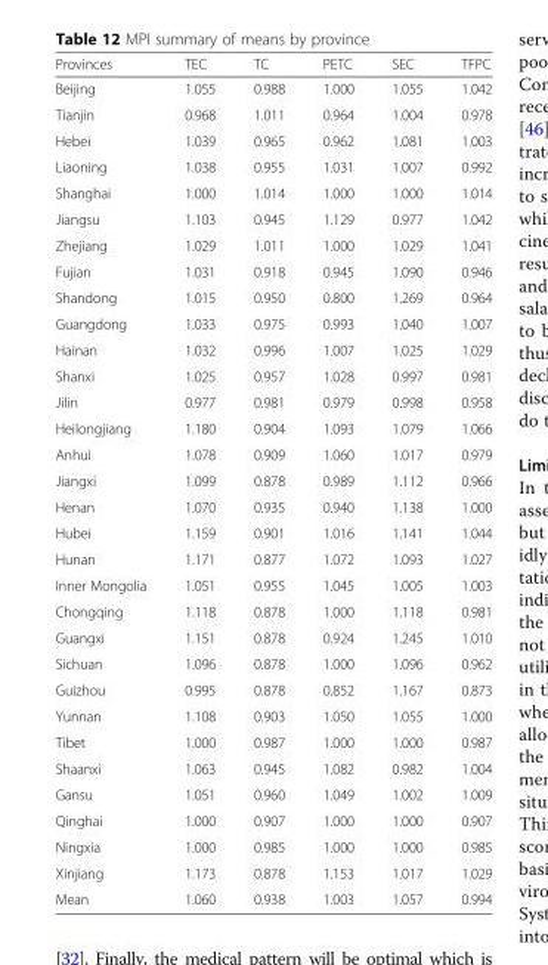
<table><thead><tr><td>Provinces</td><td>TEC</td><td>TC</td><td>PETC</td><td>SEC</td><td>TFPC</td></tr></thead><tbody><tr><td>Beijing</td><td>1.055</td><td>0.988</td><td>1.000</td><td>1.055</td><td>1.042</td></tr><tr><td>Tianjin</td><td>0.968</td><td>1.011</td><td>0.964</td><td>1.004</td><td>0.978</td></tr><tr><td>Hebei</td><td>1.039</td><td>0.965</td><td>0.962</td><td>1.081</td><td>1.003</td></tr><tr><td>Liaoning</td><td>1.038</td><td>0.955</td><td>1.031</td><td>1.007</td><td>0.992</td></tr><tr><td>Shanghai</td><td>1.000</td><td>1.014</td><td>1.000</td><td>1.000</td><td>1.014</td></tr><tr><td>Jiangsu</td><td>1.103</td><td>0.945</td><td>1.129</td><td>0.977</td><td>1.042</td></tr><tr><td>Zhejiang</td><td>1.029</td><td>1.011</td><td>1.000</td><td>1.029</td><td>1.041</td></tr><tr><td>Fujian</td><td>1.031</td><td>0.918</td><td>0.945</td><td>1.090</td><td>0.946</td></tr><tr><td>Shandong</td><td>1.015</td><td>0.950</td><td>0.800</td><td>1.269</td><td>0.964</td></tr><tr><td>Guangdong</td><td>1.033</td><td>0.975</td><td>0.993</td><td>1.040</td><td>1.007</td></tr><tr><td>Hainan</td><td>1.032</td><td>0.996</td><td>1.007</td><td>1.025</td><td>1.029</td></tr><tr><td>Shanxi</td><td>1.025</td><td>0.957</td><td>1.028</td><td>0.997</td><td>0.981</td></tr><tr><td>Jilin</td><td>0.977</td><td>0.981</td><td>0.979</td><td>0.998</td><td>0.958</td></tr><tr><td>Heilongjiang</td><td>1.180</td><td>0.904</td><td>1.093</td><td>1.079</td><td>1.066</td></tr><tr><td>Anhui</td><td>1.078</td><td>0.909</td><td>1.060</td><td>1.017</td><td>0.979</td></tr><tr><td>Jiangxi</td><td>1.099</td><td>0.878</td><td>0.989</td><td>1.112</td><td>0.966</td></tr><tr><td>Henan</td><td>1.070</td><td>0.935</td><td>0.940</td><td>1.138</td><td>1.000</td></tr><tr><td>Hubei</td><td>1.159</td><td>0.901</td><td>1.016</td><td>1.141</td><td>1.044</td></tr><tr><td>Hunan</td><td>1.171</td><td>0.877</td><td>1.072</td><td>1.093</td><td>1.027</td></tr><tr><td>Inner Mongolia</td><td>1.051</td><td>0.955</td><td>1.045</td><td>1.005</td><td>1.003</td></tr><tr><td>Chongqing</td><td>1.118</td><td>0.878</td><td>1.000</td><td>1.118</td><td>0.981</td></tr><tr><td>Guangxi</td><td>1.151</td><td>0.878</td><td>0.924</td><td>1.245</td><td>1.010</td></tr><tr><td>Sichuan</td><td>1.096</td><td>0.878</td><td>1.000</td><td>1.096</td><td>0.962</td></tr><tr><td>Guizhou</td><td>0.995</td><td>0.878</td><td>0.852</td><td>1.167</td><td>0.873</td></tr><tr><td>Yunnan</td><td>1.108</td><td>0.903</td><td>1.050</td><td>1.055</td><td>1.000</td></tr><tr><td>Tibet</td><td>1.000</td><td>0.987</td><td>1.000</td><td>1.000</td><td>0.987</td></tr><tr><td>Shaanxi</td><td>1.063</td><td>0.945</td><td>1.082</td><td>0.982</td><td>1.004</td></tr><tr><td>Gansu</td><td>1.051</td><td>0.960</td><td>1.049</td><td>1.002</td><td>1.009</td></tr><tr><td>Qinghai</td><td>1.000</td><td>0.907</td><td>1.000</td><td>1.000</td><td>0.907</td></tr><tr><td>Ningxia</td><td>1.000</td><td>0.985</td><td>1.000</td><td>1.000</td><td>0.985</td></tr><tr><td>Xinjiang</td><td>1.173</td><td>0.878</td><td>1.153</td><td>1.017</td><td>1.029</td></tr><tr><td>Mean</td><td>1.060</td><td>0.938</td><td>1.003</td><td>1.057</td><td>0.994</td></tr></tbody></table>